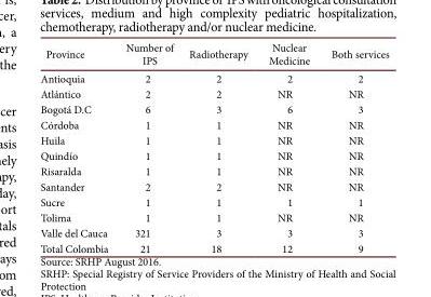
<table><thead><tr><td>Province</td><td>Number of IPS</td><td>Radiotherapy</td><td>Nuclear Medicine</td><td>Both services</td></tr></thead><tbody><tr><td>Antioquia</td><td>2</td><td>2</td><td>2</td><td>2</td></tr><tr><td>Atlántico</td><td>2</td><td>2</td><td>NR</td><td>NR</td></tr><tr><td>Bogotá D.C</td><td>6</td><td>3</td><td>6</td><td>3</td></tr><tr><td>Córdoba</td><td>1</td><td>1</td><td>NR</td><td>NR</td></tr><tr><td>Huila</td><td>1</td><td>1</td><td>NR</td><td>NR</td></tr><tr><td>Quindío</td><td>1</td><td>1</td><td>NR</td><td>NR</td></tr><tr><td>Risaralda</td><td>1</td><td>1</td><td>NR</td><td>NR</td></tr><tr><td>Santander</td><td>2</td><td>2</td><td>NR</td><td>NR</td></tr><tr><td>Sucre</td><td>1</td><td>1</td><td>1</td><td>1</td></tr><tr><td>Tolima</td><td>1</td><td>1</td><td>NR</td><td>NR</td></tr><tr><td>Valle del Cauca</td><td>321</td><td>3</td><td>3</td><td>3</td></tr><tr><td>Total Colombia</td><td>21</td><td>18</td><td>12</td><td>9</td></tr></tbody></table>